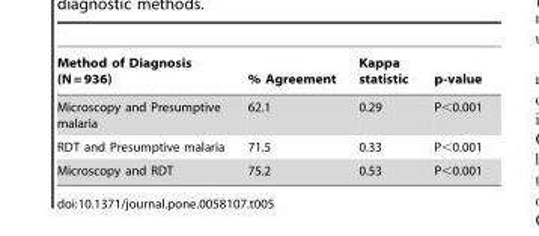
<table><thead><tr><td>Method of Diagnosis (N = 936)</td><td>% Agreement</td><td>Kappa statistic</td><td>p-value</td></tr></thead><tbody><tr><td>Microscopy and Presumptive malaria</td><td>62.1</td><td>0.29</td><td>P&lt;0.001</td></tr><tr><td>RDT and Presumptive malaria</td><td>71.5</td><td>0.33</td><td>P&lt;0.001</td></tr><tr><td>Microscopy and RDT</td><td>75.2</td><td>0.53</td><td>P&lt;0.001</td></tr></tbody></table>